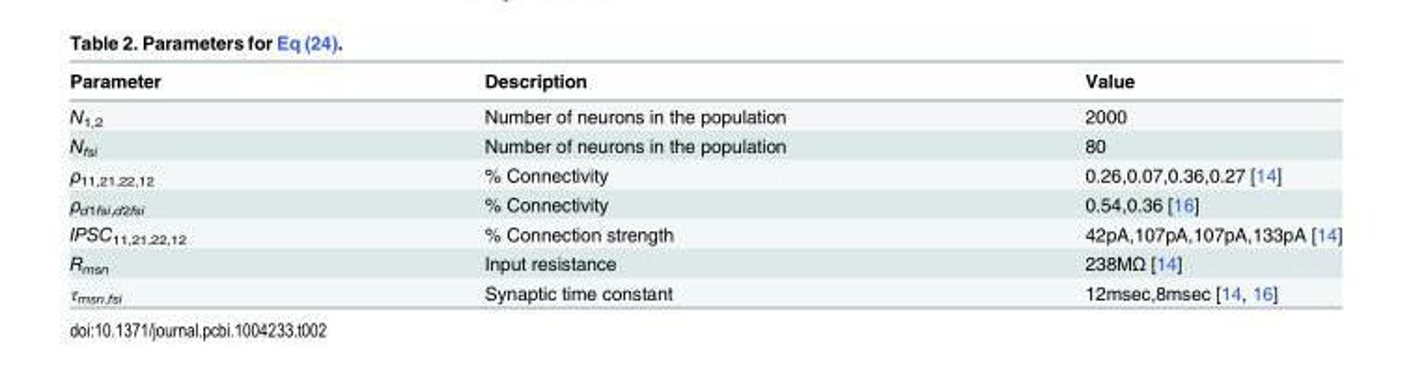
<table><thead><tr><td>Parameter</td><td>Description</td><td>Value</td></tr></thead><tbody><tr><td>N<sub>1,2</sub></td><td>Number of neurons in the population</td><td>2000</td></tr><tr><td>N<sub>fsi</sub></td><td>Number of neurons in the population</td><td>80</td></tr><tr><td>ρ<sub>11,21,22,12</sub></td><td>% Connectivity</td><td>0.26,0.07,0.36,0.27 [14]</td></tr><tr><td>ρ<sub>d1fsi,d2fsi</sub></td><td>% Connectivity</td><td>0.54,0.36 [16]</td></tr><tr><td>IPSC<sub>11,21,22,12</sub></td><td>% Connection strength</td><td>42pA,107pA,107pA,133pA [14]</td></tr><tr><td>R<sub>msn</sub></td><td>Input resistance</td><td>238MΩ [14]</td></tr><tr><td>τ<sub>msn,fsi</sub></td><td>Synaptic time constant</td><td>12msec,8msec [14, 16]</td></tr></tbody></table>